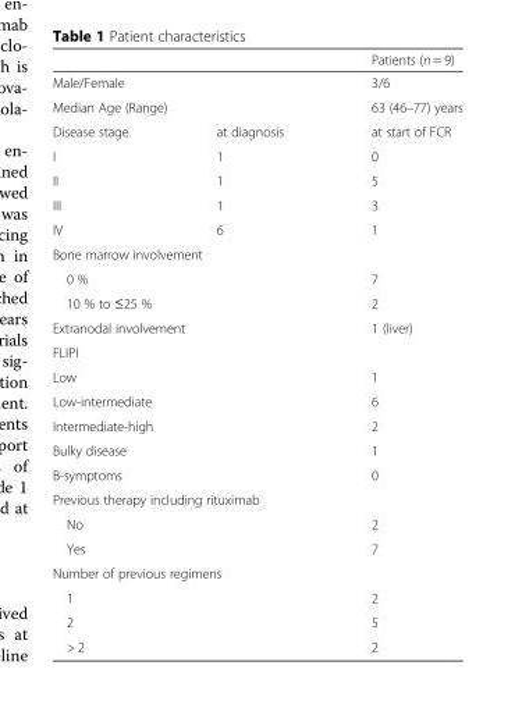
<table><thead><tr><td></td><td></td><td>Patients (n = 9)</td></tr></thead><tbody><tr><td colspan="2">Male/Female</td><td>3/6</td></tr><tr><td colspan="2">Median Age (Range)</td><td>63 (46–77) years</td></tr><tr><td>Disease stage</td><td>at diagnosis</td><td>at start of FCR</td></tr><tr><td>I</td><td>1</td><td>0</td></tr><tr><td>II</td><td>1</td><td>5</td></tr><tr><td>III</td><td>1</td><td>3</td></tr><tr><td>IV</td><td>6</td><td>1</td></tr><tr><td colspan="3">Bone marrow involvement</td></tr><tr><td colspan="2">0 %</td><td>7</td></tr><tr><td colspan="2">10 % to ≤25 %</td><td>2</td></tr><tr><td colspan="2">Extranodal involvement</td><td>1 (liver)</td></tr><tr><td colspan="3">FLIPI</td></tr><tr><td colspan="2">Low</td><td>1</td></tr><tr><td colspan="2">Low-intermediate</td><td>6</td></tr><tr><td colspan="2">Intermediate-high</td><td>2</td></tr><tr><td colspan="2">Bulky disease</td><td>1</td></tr><tr><td colspan="2">B-symptoms</td><td>0</td></tr><tr><td colspan="3">Previous therapy including rituximab</td></tr><tr><td colspan="2">No</td><td>2</td></tr><tr><td colspan="2">Yes</td><td>7</td></tr><tr><td colspan="3">Number of previous regimens</td></tr><tr><td colspan="2">1</td><td>2</td></tr><tr><td colspan="2">2</td><td>5</td></tr><tr><td colspan="2">&gt; 2</td><td>2</td></tr></tbody></table>